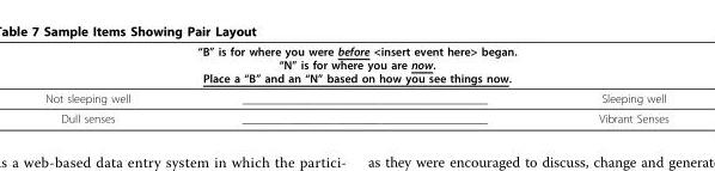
<table><thead><tr><td colspan="3">“B” is for where you were before &lt;insert event here&gt; began. “N” is for where you are now. Place a “B” and an “N” based on how you see things now.</td></tr><tr><td>Not sleeping well</td><td>_________________________________________</td><td>Sleeping well</td></tr></thead><tbody><tr><td>Dull senses</td><td>_________________________________________</td><td>Vibrant Senses</td></tr></tbody></table>